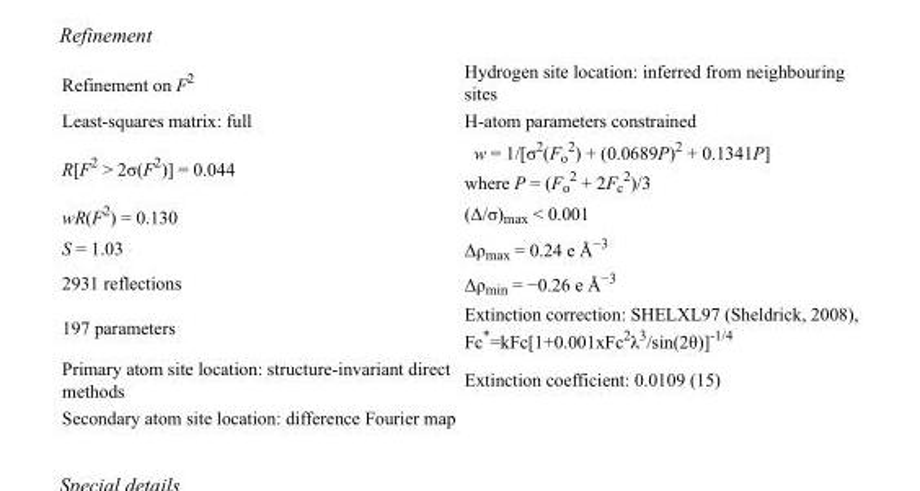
<table><tbody><tr><td>Refinement on F<sup>2</sup></td><td>Hydrogen site location: inferred from neighbouring sites</td></tr><tr><td>Least-squares matrix: full</td><td>H-atom parameters constrained</td></tr><tr><td>R[F<sup>2</sup> &gt; 2σ(F<sup>2</sup>)] = 0.044</td><td>w = 1/[σ<sup>2</sup>(F<sub>o</sub> <sup>2</sup>) + (0.0689P)<sup>2</sup> + 0.1341P] where P = (F<sub>o</sub> <sup>2</sup> + 2F<sub>c</sub> <sup>2</sup>)/3</td></tr><tr><td>wR(F<sup>2</sup>) = 0.130</td><td>(Δ/σ)<sub>max</sub> &lt; 0.001</td></tr><tr><td>S = 1.03</td><td>Δρ<sub>max</sub> = 0.24 e Å<sup>−3</sup></td></tr><tr><td>2931 reflections</td><td>Δρ<sub>min</sub> = −0.26 e Å<sup>−3</sup></td></tr><tr><td>197 parameters</td><td>Extinction correction: SHELXL97 (Sheldrick, 2008), Fc*=kFc[1+0.001xFc<sup>2</sup>λ<sup>3</sup>/sin(2θ)]<sup>-1/4</sup></td></tr><tr><td>Primary atom site location: structure-invariant direct methods</td><td>Extinction coefficient: 0.0109 (15)</td></tr><tr><td>Secondary atom site location: difference Fourier map</td><td></td></tr></tbody></table>